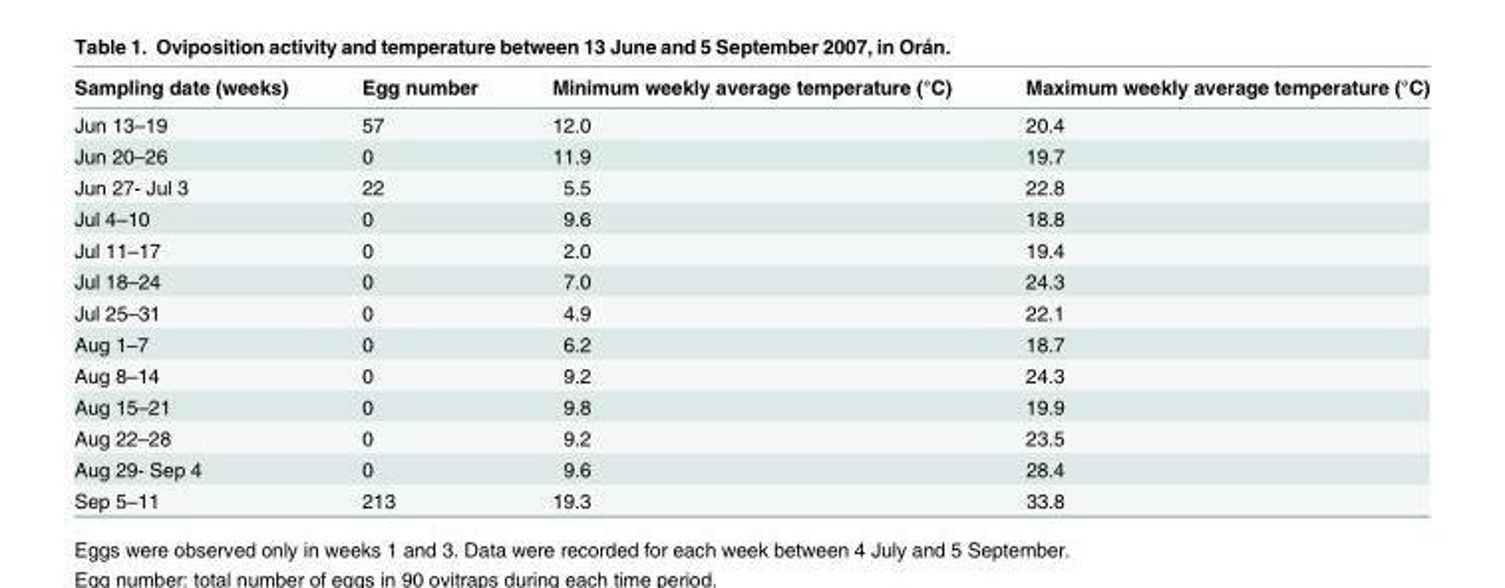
<table><thead><tr><td>Sampling date (weeks)</td><td>Egg number</td><td>Minimum weekly average temperature (°C)</td><td>Maximum weekly average temperature (°C)</td></tr></thead><tbody><tr><td>Jun 13–19</td><td>57</td><td>12.0</td><td>20.4</td></tr><tr><td>Jun 20–26</td><td>0</td><td>11.9</td><td>19.7</td></tr><tr><td>Jun 27- Jul 3</td><td>22</td><td>5.5</td><td>22.8</td></tr><tr><td>Jul 4–10</td><td>0</td><td>9.6</td><td>18.8</td></tr><tr><td>Jul 11–17</td><td>0</td><td>2.0</td><td>19.4</td></tr><tr><td>Jul 18–24</td><td>0</td><td>7.0</td><td>24.3</td></tr><tr><td>Jul 25–31</td><td>0</td><td>4.9</td><td>22.1</td></tr><tr><td>Aug 1–7</td><td>0</td><td>6.2</td><td>18.7</td></tr><tr><td>Aug 8–14</td><td>0</td><td>9.2</td><td>24.3</td></tr><tr><td>Aug 15–21</td><td>0</td><td>9.8</td><td>19.9</td></tr><tr><td>Aug 22–28</td><td>0</td><td>9.2</td><td>23.5</td></tr><tr><td>Aug 29- Sep 4</td><td>0</td><td>9.6</td><td>28.4</td></tr><tr><td>Sep 5–11</td><td>213</td><td>19.3</td><td>33.8</td></tr></tbody></table>